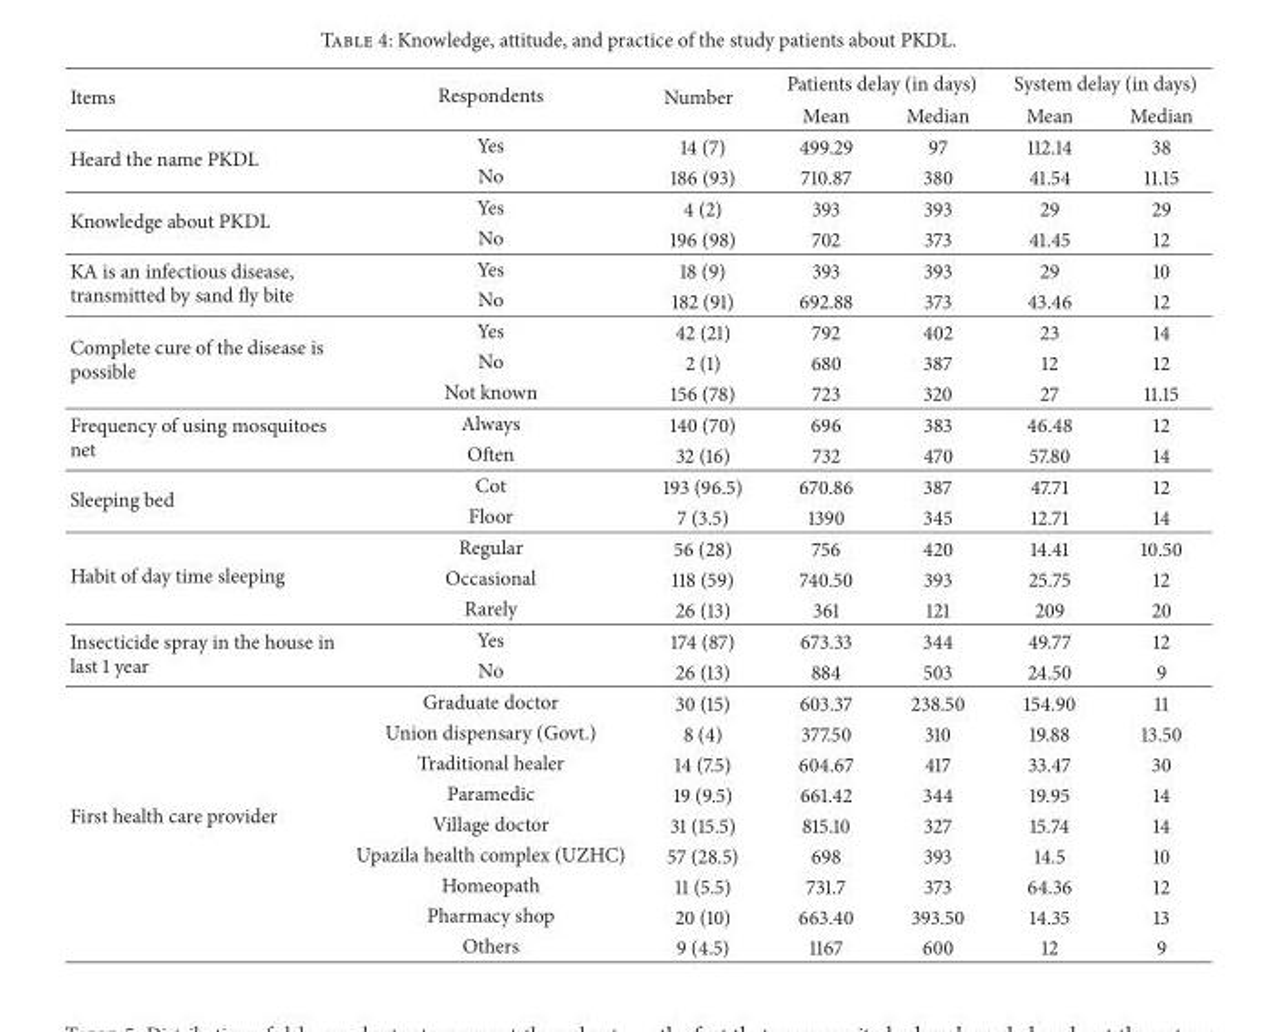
<table><thead><tr><td rowspan="2">Items</td><td rowspan="2">Respondents</td><td rowspan="2">Number</td><td colspan="2">Patients delay (in days)</td><td colspan="2">System delay (in days)</td></tr><tr><td>Mean</td><td>Median</td><td>Mean</td><td>Median</td></tr></thead><tbody><tr><td rowspan="2">Heard the name PKDL</td><td>Yes</td><td>14 (7)</td><td>499.29</td><td>97</td><td>112.14</td><td>38</td></tr><tr><td>No</td><td>186 (93)</td><td>710.87</td><td>380</td><td>41.54</td><td>11.15</td></tr><tr><td rowspan="2">Knowledge about PKDL</td><td>Yes</td><td>4 (2)</td><td>393</td><td>393</td><td>29</td><td>29</td></tr><tr><td>No</td><td>196 (98)</td><td>702</td><td>373</td><td>41.45</td><td>12</td></tr><tr><td rowspan="2">KA is an infectious disease, transmitted by sand fly bite</td><td>Yes</td><td>18 (9)</td><td>393</td><td>393</td><td>29</td><td>10</td></tr><tr><td>No</td><td>182 (91)</td><td>692.88</td><td>373</td><td>43.46</td><td>12</td></tr><tr><td rowspan="3">Complete cure of the disease is possible</td><td>Yes</td><td>42 (21)</td><td>792</td><td>402</td><td>23</td><td>14</td></tr><tr><td>No</td><td>2 (1)</td><td>680</td><td>387</td><td>12</td><td>12</td></tr><tr><td>Not known</td><td>156 (78)</td><td>723</td><td>320</td><td>27</td><td>11.15</td></tr><tr><td rowspan="2">Frequency of using mosquitoes net</td><td>Always</td><td>140 (70)</td><td>696</td><td>383</td><td>46.48</td><td>12</td></tr><tr><td>Often</td><td>32 (16)</td><td>732</td><td>470</td><td>57.80</td><td>14</td></tr><tr><td rowspan="2">Sleeping bed</td><td>Cot</td><td>193 (96.5)</td><td>670.86</td><td>387</td><td>47.71</td><td>12</td></tr><tr><td>Floor</td><td>7 (3.5)</td><td>1390</td><td>345</td><td>12.71</td><td>14</td></tr><tr><td rowspan="3">Habit of day time sleeping</td><td>Regular</td><td>56 (28)</td><td>756</td><td>420</td><td>14.41</td><td>10.50</td></tr><tr><td>Occasional</td><td>118 (59)</td><td>740.50</td><td>393</td><td>25.75</td><td>12</td></tr><tr><td>Rarely</td><td>26 (13)</td><td>361</td><td>121</td><td>209</td><td>20</td></tr><tr><td rowspan="2">Insecticide spray in the house in last 1 year</td><td>Yes</td><td>174 (87)</td><td>673.33</td><td>344</td><td>49.77</td><td>12</td></tr><tr><td>No</td><td>26 (13)</td><td>884</td><td>503</td><td>24.50</td><td>9</td></tr><tr><td rowspan="9">First health care provider</td><td>Graduate doctor</td><td>30 (15)</td><td>603.37</td><td>238.50</td><td>154.90</td><td>11</td></tr><tr><td>Union dispensary (Govt.)</td><td>8 (4)</td><td>377.50</td><td>310</td><td>19.88</td><td>13.50</td></tr><tr><td>Traditional healer</td><td>14 (7.5)</td><td>604.67</td><td>417</td><td>33.47</td><td>30</td></tr><tr><td>Paramedic</td><td>19 (9.5)</td><td>661.42</td><td>344</td><td>19.95</td><td>14</td></tr><tr><td>Village doctor</td><td>31 (15.5)</td><td>815.10</td><td>327</td><td>15.74</td><td>14</td></tr><tr><td>Upazila health complex (UZHC)</td><td>57 (28.5)</td><td>698</td><td>393</td><td>14.5</td><td>10</td></tr><tr><td>Homeopath</td><td>11 (5.5)</td><td>731.7</td><td>373</td><td>64.36</td><td>12</td></tr><tr><td>Pharmacy shop</td><td>20 (10)</td><td>663.40</td><td>393.50</td><td>14.35</td><td>13</td></tr><tr><td>Others</td><td>9 (4.5)</td><td>1167</td><td>600</td><td>12</td><td>9</td></tr></tbody></table>